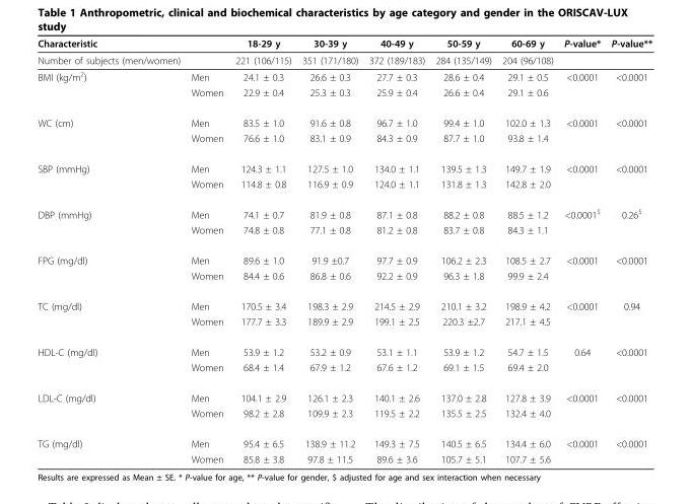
<table><thead><tr><td>Characteristic</td><td></td><td>18-29 y</td><td>30-39 y</td><td>40-49 y</td><td>50-59 y</td><td>60-69 y</td><td>P-value*</td><td>P-value**</td></tr></thead><tbody><tr><td>Number of subjects (men/women)</td><td></td><td>221 (106/115)</td><td>351 (171/180)</td><td>372 (189/183)</td><td>284 (135/149)</td><td>204 (96/108)</td><td></td><td></td></tr><tr><td rowspan="2">BMI (kg/m<sup>2</sup>)</td><td>Men</td><td>24.1 ± 0.3</td><td>26.6 ± 0.3</td><td>27.7 ± 0.3</td><td>28.6 ± 0.4</td><td>29.1 ± 0.5</td><td>&lt;0.0001</td><td>&lt;0.0001</td></tr><tr><td>Women</td><td>22.9 ± 0.4</td><td>25.3 ± 0.3</td><td>25.9 ± 0.4</td><td>26.6 ± 0.4</td><td>29.1 ± 0.6</td><td></td><td></td></tr><tr><td rowspan="2">WC (cm)</td><td>Men</td><td>83.5 ± 1.0</td><td>91.6 ± 0.8</td><td>96.7 ± 1.0</td><td>99.4 ± 1.0</td><td>102.0 ± 1.3</td><td>&lt;0.0001</td><td>&lt;0.0001</td></tr><tr><td>Women</td><td>76.6 ± 1.0</td><td>83.1 ± 0.9</td><td>84.3 ± 0.9</td><td>87.7 ± 1.0</td><td>93.8 ± 1.4</td><td></td><td></td></tr><tr><td rowspan="2">SBP (mmHg)</td><td>Men</td><td>124.3 ± 1.1</td><td>127.5 ± 1.0</td><td>134.0 ± 1.1</td><td>139.5 ± 1.3</td><td>149.7 ± 1.9</td><td>&lt;0.0001</td><td>&lt;0.0001</td></tr><tr><td>Women</td><td>114.8 ± 0.8</td><td>116.9 ± 0.9</td><td>124.0 ± 1.1</td><td>131.8 ± 1.3</td><td>142.8 ± 2.0</td><td></td><td></td></tr><tr><td rowspan="2">DBP (mmHg)</td><td>Men</td><td>74.1 ± 0.7</td><td>81.9 ± 0.8</td><td>87.1 ± 0.8</td><td>88.2 ± 0.8</td><td>88.5 ± 1.2</td><td>&lt;0.0001<sup>$</sup></td><td>0.26<sup>$</sup></td></tr><tr><td>Women</td><td>74.8 ± 0.8</td><td>77.1 ± 0.8</td><td>81.2 ± 0.8</td><td>83.7 ± 0.8</td><td>84.3 ± 1.1</td><td></td><td></td></tr><tr><td rowspan="2">FPG (mg/dl)</td><td>Men</td><td>89.6 ± 1.0</td><td>91.9 ±0.7</td><td>97.7 ± 0.9</td><td>106.2 ± 2.3</td><td>108.5 ± 2.7</td><td>&lt;0.0001</td><td>&lt;0.0001</td></tr><tr><td>Women</td><td>84.4 ± 0.6</td><td>86.8 ± 0.6</td><td>92.2 ± 0.9</td><td>96.3 ± 1.8</td><td>99.9 ± 2.4</td><td></td><td></td></tr><tr><td rowspan="2">TC (mg/dl)</td><td>Men</td><td>170.5 ± 3.4</td><td>198.3 ± 2.9</td><td>214.5 ± 2.9</td><td>210.1 ± 3.2</td><td>198.9 ± 4.2</td><td>&lt;0.0001</td><td>0.94</td></tr><tr><td>Women</td><td>177.7 ± 3.3</td><td>189.9 ± 2.9</td><td>199.1 ± 2.5</td><td>220.3 ±2.7</td><td>217.1 ± 4.5</td><td></td><td></td></tr><tr><td rowspan="2">HDL-C (mg/dl)</td><td>Men</td><td>53.9 ± 1.2</td><td>53.2 ± 0.9</td><td>53.1 ± 1.1</td><td>53.9 ± 1.2</td><td>54.7 ± 1.5</td><td>0.64</td><td>&lt;0.0001</td></tr><tr><td>Women</td><td>68.4 ± 1.4</td><td>67.9 ± 1.2</td><td>67.6 ± 1.2</td><td>69.1 ± 1.5</td><td>69.4 ± 2.0</td><td></td><td></td></tr><tr><td rowspan="2">LDL-C (mg/dl)</td><td>Men</td><td>104.1 ± 2.9</td><td>126.1 ± 2.3</td><td>140.1 ± 2.6</td><td>137.0 ± 2.8</td><td>127.8 ± 3.9</td><td>&lt;0.0001</td><td>&lt;0.0001</td></tr><tr><td>Women</td><td>98.2 ± 2.8</td><td>109.9 ± 2.3</td><td>119.5 ± 2.2</td><td>135.5 ± 2.5</td><td>132.4 ± 4.0</td><td></td><td></td></tr><tr><td rowspan="2">TG (mg/dl)</td><td>Men</td><td>95.4 ± 6.5</td><td>138.9 ± 11.2</td><td>149.3 ± 7.5</td><td>140.5 ± 6.5</td><td>134.4 ± 6.0</td><td>&lt;0.0001</td><td>&lt;0.0001</td></tr><tr><td>Women</td><td>85.8 ± 3.8</td><td>97.8 ± 11.5</td><td>89.6 ± 3.6</td><td>105.7 ± 5.1</td><td>107.7 ± 5.6</td><td></td><td></td></tr></tbody></table>